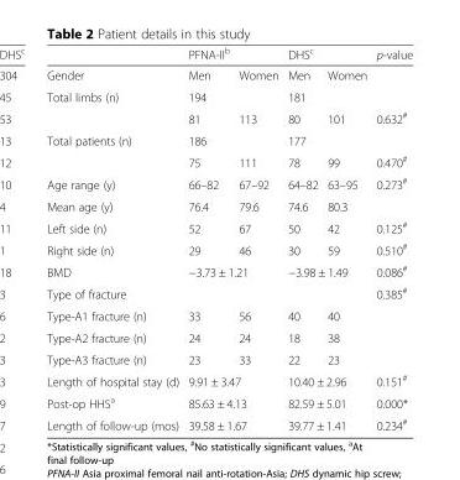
<table><thead><tr><td></td><td>PFNA-II<sup>b</sup></td><td></td><td>DHS<sup>c</sup></td><td></td><td>p-value</td></tr></thead><tbody><tr><td>Gender</td><td>Men</td><td>Women</td><td>Men</td><td>Women</td><td></td></tr><tr><td rowspan="2">Total limbs (n)</td><td colspan="2">194</td><td colspan="2">181</td><td></td></tr><tr><td>81</td><td>113</td><td>80</td><td>101</td><td>0.632<sup>#</sup></td></tr><tr><td rowspan="2">Total patients (n)</td><td colspan="2">186</td><td colspan="2">177</td><td></td></tr><tr><td>75</td><td>111</td><td>78</td><td>99</td><td>0.470<sup>#</sup></td></tr><tr><td>Age range (y)</td><td>66–82</td><td>67–92</td><td>64–82</td><td>63–95</td><td>0.273<sup>#</sup></td></tr><tr><td>Mean age (y)</td><td>76.4</td><td>79.6</td><td>74.6</td><td>80.3</td><td></td></tr><tr><td>Left side (n)</td><td>52</td><td>67</td><td>50</td><td>42</td><td>0.125<sup>#</sup></td></tr><tr><td>Right side (n)</td><td>29</td><td>46</td><td>30</td><td>59</td><td>0.510<sup>#</sup></td></tr><tr><td>BMD</td><td colspan="2">−3.73 ± 1.21</td><td colspan="2">−3.98 ± 1.49</td><td>0.086<sup>#</sup></td></tr><tr><td colspan="2">Type of fracture</td><td></td><td></td><td></td><td>0.385<sup>#</sup></td></tr><tr><td>Type-A1 fracture (n)</td><td>33</td><td>56</td><td>40</td><td>40</td><td></td></tr><tr><td>Type-A2 fracture (n)</td><td>24</td><td>24</td><td>18</td><td>38</td><td></td></tr><tr><td>Type-A3 fracture (n)</td><td>23</td><td>33</td><td>22</td><td>23</td><td></td></tr><tr><td>Length of hospital stay (d)</td><td colspan="2">9.91 ± 3.47</td><td colspan="2">10.40 ± 2.96</td><td>0.151<sup>#</sup></td></tr><tr><td>Post-op HHS<sup>a</sup></td><td colspan="2">85.63 ± 4.13</td><td colspan="2">82.59 ± 5.01</td><td>0.000*</td></tr><tr><td>Length of follow-up (mos)</td><td colspan="2">39.58 ± 1.67</td><td colspan="2">39.77 ± 1.41</td><td>0.234<sup>#</sup></td></tr></tbody></table>